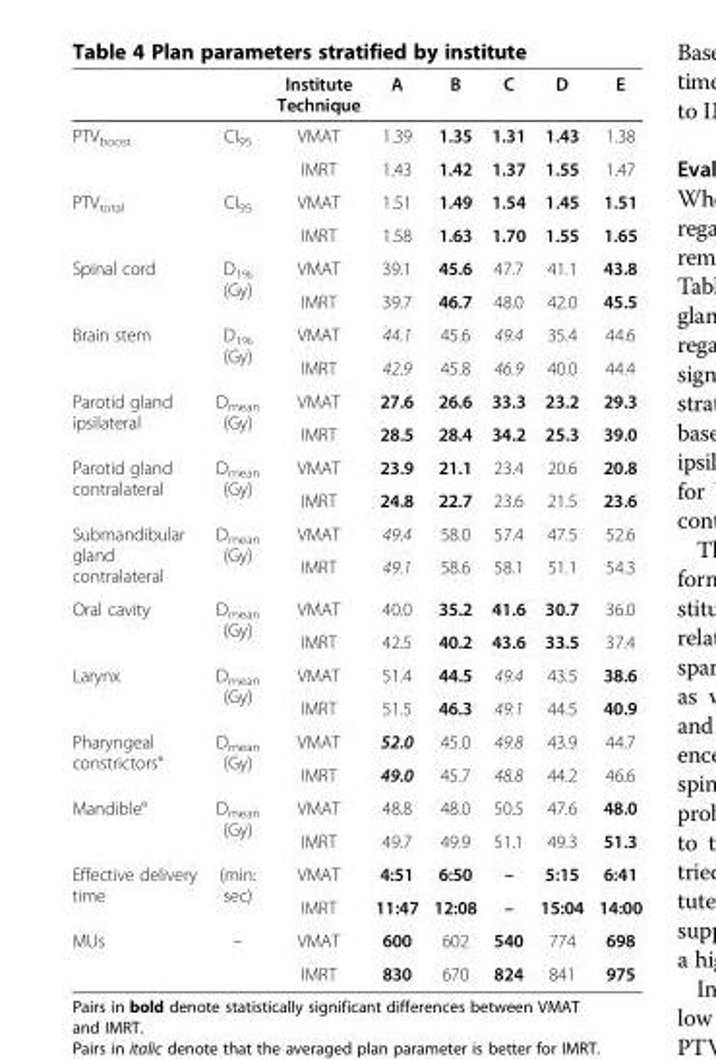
<table><thead><tr><td></td><td></td><td>Institute Technique</td><td>A</td><td>B</td><td>C</td><td>D</td><td>E</td></tr></thead><tbody><tr><td rowspan="2">PTV<sub>boost</sub></td><td rowspan="2">CI<sub>95</sub></td><td>VMAT</td><td>1.39</td><td>1.35</td><td>1.31</td><td>1.43</td><td>1.38</td></tr><tr><td>IMRT</td><td>1.43</td><td>1.42</td><td>1.37</td><td>1.55</td><td>1.47</td></tr><tr><td rowspan="2">PTV<sub>total</sub></td><td rowspan="2">CI<sub>95</sub></td><td>VMAT</td><td>1.51</td><td>1.49</td><td>1.54</td><td>1.45</td><td>1.51</td></tr><tr><td>IMRT</td><td>1.58</td><td>1.63</td><td>1.70</td><td>1.55</td><td>1.65</td></tr><tr><td rowspan="2">Spinal cord</td><td rowspan="2">D<sub>1%</sub> (Gy)</td><td>VMAT</td><td>39.1</td><td>45.6</td><td>47.7</td><td>41.1</td><td>43.8</td></tr><tr><td>IMRT</td><td>39.7</td><td>46.7</td><td>48.0</td><td>42.0</td><td>45.5</td></tr><tr><td rowspan="2">Brain stem</td><td rowspan="2">D<sub>1%</sub> (Gy)</td><td>VMAT</td><td>44.1</td><td>45.6</td><td>49.4</td><td>35.4</td><td>44.6</td></tr><tr><td>IMRT</td><td>42.9</td><td>45.8</td><td>46.9</td><td>40.0</td><td>44.4</td></tr><tr><td rowspan="2">Parotid gland ipsilateral</td><td rowspan="2">D<sub>mean</sub> (Gy)</td><td>VMAT</td><td>27.6</td><td>26.6</td><td>33.3</td><td>23.2</td><td>29.3</td></tr><tr><td>IMRT</td><td>28.5</td><td>28.4</td><td>34.2</td><td>25.3</td><td>39.0</td></tr><tr><td rowspan="2">Parotid gland contralateral</td><td rowspan="2">D<sub>mean</sub> (Gy)</td><td>VMAT</td><td>23.9</td><td>21.1</td><td>23.4</td><td>20.6</td><td>20.8</td></tr><tr><td>IMRT</td><td>24.8</td><td>22.7</td><td>23.6</td><td>21.5</td><td>23.6</td></tr><tr><td rowspan="2">Submandibular gland contralateral</td><td rowspan="2">D<sub>mean</sub> (Gy)</td><td>VMAT</td><td>49.4</td><td>58.0</td><td>57.4</td><td>47.5</td><td>52.6</td></tr><tr><td>IMRT</td><td>49.1</td><td>58.6</td><td>58.1</td><td>51.1</td><td>54.3</td></tr><tr><td rowspan="2">Oral cavity</td><td rowspan="2">D<sub>mean</sub> (Gy)</td><td>VMAT</td><td>40.0</td><td>35.2</td><td>41.6</td><td>30.7</td><td>36.0</td></tr><tr><td>IMRT</td><td>42.5</td><td>40.2</td><td>43.6</td><td>33.5</td><td>37.4</td></tr><tr><td rowspan="2">Larynx</td><td rowspan="2">D<sub>mean</sub> (Gy)</td><td>VMAT</td><td>51.4</td><td>44.5</td><td>49.4</td><td>43.5</td><td>38.6</td></tr><tr><td>IMRT</td><td>51.5</td><td>46.3</td><td>49.1</td><td>44.5</td><td>40.9</td></tr><tr><td rowspan="2">Pharyngeal constrictors°</td><td rowspan="2">D<sub>mean</sub> (Gy)</td><td>VMAT</td><td>52.0</td><td>45.0</td><td>49.8</td><td>43.9</td><td>44.7</td></tr><tr><td>IMRT</td><td>49.0</td><td>45.7</td><td>48.8</td><td>44.2</td><td>46.6</td></tr><tr><td rowspan="2">Mandible°</td><td rowspan="2">D<sub>mean</sub> (Gy)</td><td>VMAT</td><td>48.8</td><td>48.0</td><td>50.5</td><td>47.6</td><td>48.0</td></tr><tr><td>IMRT</td><td>49.7</td><td>49.9</td><td>51.1</td><td>49.3</td><td>51.3</td></tr><tr><td rowspan="2">Effective delivery time</td><td rowspan="2">(min: sec)</td><td>VMAT</td><td>4:51</td><td>6:50</td><td>–</td><td>5:15</td><td>6:41</td></tr><tr><td>IMRT</td><td>11:47</td><td>12:08</td><td>–</td><td>15:04</td><td>14:00</td></tr><tr><td rowspan="2">MUs</td><td>–</td><td>VMAT</td><td>600</td><td>602</td><td>540</td><td>774</td><td>698</td></tr><tr><td></td><td>IMRT</td><td>830</td><td>670</td><td>824</td><td>841</td><td>975</td></tr></tbody></table>